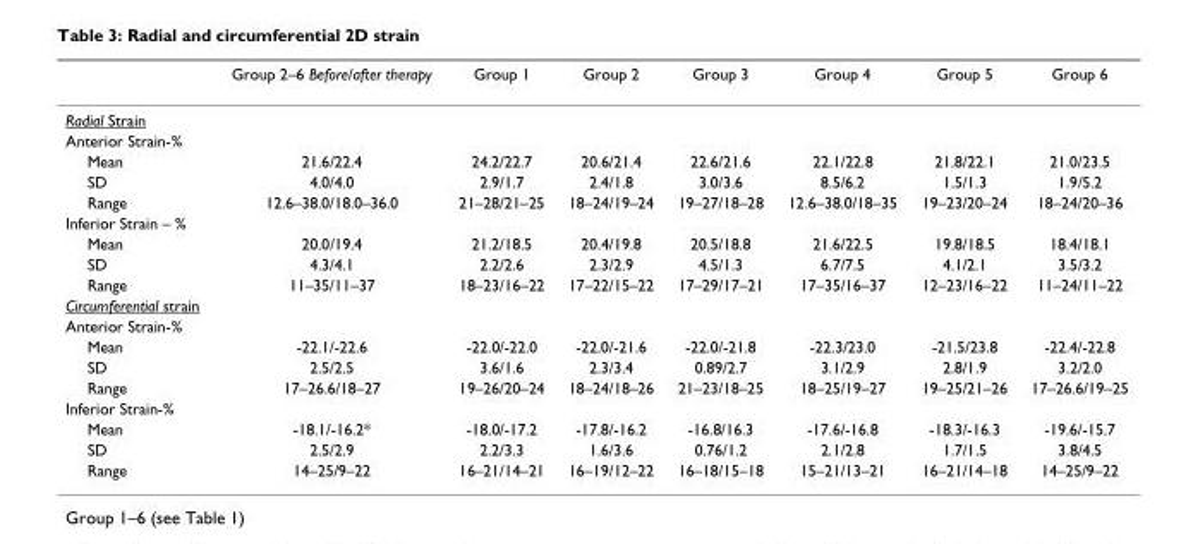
<table><thead><tr><td></td><td>Group 2–6 Before/after therapy</td><td>Group 1</td><td>Group 2</td><td>Group 3</td><td>Group 4</td><td>Group 5</td><td>Group 6</td></tr></thead><tbody><tr><td colspan="8">Radial Strain</td></tr><tr><td colspan="8">Anterior Strain-%</td></tr><tr><td>Mean</td><td>21.6/22.4</td><td>24.2/22.7</td><td>20.6/21.4</td><td>22.6/21.6</td><td>22.1/22.8</td><td>21.8/22.1</td><td>21.0/23.5</td></tr><tr><td>SD</td><td>4.0/4.0</td><td>2.9/1.7</td><td>2.4/1.8</td><td>3.0/3.6</td><td>8.5/6.2</td><td>1.5/1.3</td><td>1.9/5.2</td></tr><tr><td>Range</td><td>12.6–38.0/18.0–36.0</td><td>21–28/21–25</td><td>18–24/19–24</td><td>19–27/18–28</td><td>12.6–38.0/18–35</td><td>19–23/20–24</td><td>18–24/20–36</td></tr><tr><td colspan="8">Inferior Strain – %</td></tr><tr><td>Mean</td><td>20.0/19.4</td><td>21.2/18.5</td><td>20.4/19.8</td><td>20.5/18.8</td><td>21.6/22.5</td><td>19.8/18.5</td><td>18.4/18.1</td></tr><tr><td>SD</td><td>4.3/4.1</td><td>2.2/2.6</td><td>2.3/2.9</td><td>4.5/1.3</td><td>6.7/7.5</td><td>4.1/2.1</td><td>3.5/3.2</td></tr><tr><td>Range</td><td>11–35/11–37</td><td>18–23/16–22</td><td>17–22/15–22</td><td>17–29/17–21</td><td>17–35/16–37</td><td>12–23/16–22</td><td>11–24/11–22</td></tr><tr><td colspan="8">Circumferential strain</td></tr><tr><td colspan="8">Anterior Strain-%</td></tr><tr><td>Mean</td><td>-22.1/-22.6</td><td>-22.0/-22.0</td><td>-22.0/-21.6</td><td>-22.0/-21.8</td><td>-22.3/23.0</td><td>-21.5/23.8</td><td>-22.4/-22.8</td></tr><tr><td>SD</td><td>2.5/2.5</td><td>3.6/1.6</td><td>2.3/3.4</td><td>0.89/2.7</td><td>3.1/2.9</td><td>2.8/1.9</td><td>3.2/2.0</td></tr><tr><td>Range</td><td>17–26.6/18–27</td><td>19–26/20–24</td><td>18–24/18–26</td><td>21–23/18–25</td><td>18–25/19–27</td><td>19–25/21–26</td><td>17–26.6/19–25</td></tr><tr><td colspan="8">Inferior Strain-%</td></tr><tr><td>Mean</td><td>-18.1/-16.2*</td><td>-18.0/-17.2</td><td>-17.8/-16.2</td><td>-16.8/16.3</td><td>-17.6/-16.8</td><td>-18.3/-16.3</td><td>-19.6/-15.7</td></tr><tr><td>SD</td><td>2.5/2.9</td><td>2.2/3.3</td><td>1.6/3.6</td><td>0.76/1.2</td><td>2.1/2.8</td><td>1.7/1.5</td><td>3.8/4.5</td></tr><tr><td>Range</td><td>14–25/9–22</td><td>16–21/14–21</td><td>16–19/12–22</td><td>16–18/15–18</td><td>15–21/13–21</td><td>16–21/14–18</td><td>14–25/9–22</td></tr></tbody></table>